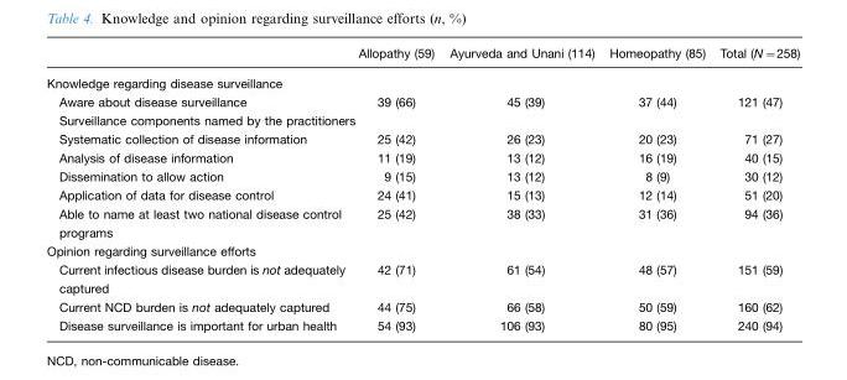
<table><thead><tr><td></td><td>Allopathy (59)</td><td>Ayurveda and Unani (114)</td><td>Homeopathy (85)</td><td>Total (N=258)</td></tr></thead><tbody><tr><td colspan="5">Knowledge regarding disease surveillance</td></tr><tr><td>Aware about disease surveillance</td><td>39 (66)</td><td>45 (39)</td><td>37 (44)</td><td>121 (47)</td></tr><tr><td colspan="5">Surveillance components named by the practitioners</td></tr><tr><td>Systematic collection of disease information</td><td>25 (42)</td><td>26 (23)</td><td>20 (23)</td><td>71 (27)</td></tr><tr><td>Analysis of disease information</td><td>11 (19)</td><td>13 (12)</td><td>16 (19)</td><td>40 (15)</td></tr><tr><td>Dissemination to allow action</td><td>9 (15)</td><td>13 (12)</td><td>8 (9)</td><td>30 (12)</td></tr><tr><td>Application of data for disease control</td><td>24 (41)</td><td>15 (13)</td><td>12 (14)</td><td>51 (20)</td></tr><tr><td>Able to name at least two national disease control programs</td><td>25 (42)</td><td>38 (33)</td><td>31 (36)</td><td>94 (36)</td></tr><tr><td colspan="5">Opinion regarding surveillance efforts</td></tr><tr><td>Current infectious disease burden is not adequately captured</td><td>42 (71)</td><td>61 (54)</td><td>48 (57)</td><td>151 (59)</td></tr><tr><td>Current NCD burden is not adequately captured</td><td>44 (75)</td><td>66 (58)</td><td>50 (59)</td><td>160 (62)</td></tr><tr><td>Disease surveillance is important for urban health</td><td>54 (93)</td><td>106 (93)</td><td>80 (95)</td><td>240 (94)</td></tr></tbody></table>